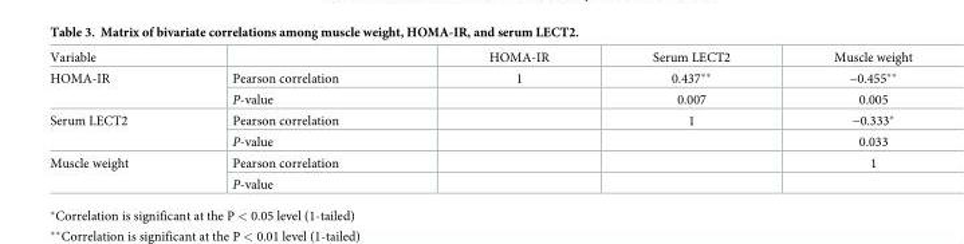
<table><tbody><tr><td>Variable</td><td></td><td>HOMA-IR</td><td>Serum LECT2</td><td>Muscle weight</td></tr><tr><td rowspan="2">HOMA-IR</td><td>Pearson correlation</td><td>1</td><td>0.437**</td><td>−0.455**</td></tr><tr><td>P-value</td><td></td><td>0.007</td><td>0.005</td></tr><tr><td rowspan="2">Serum LECT2</td><td>Pearson correlation</td><td></td><td>1</td><td>−0.333*</td></tr><tr><td>P-value</td><td></td><td></td><td>0.033</td></tr><tr><td rowspan="2">Muscle weight</td><td>Pearson correlation</td><td></td><td></td><td>1</td></tr><tr><td>P-value</td><td></td><td></td><td></td></tr></tbody></table>